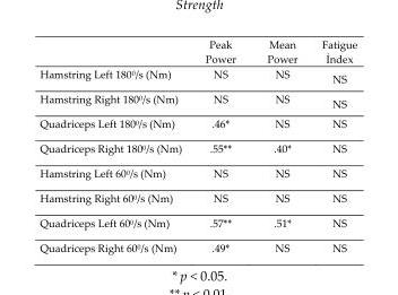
<table><thead><tr><td></td><td>Peak Power</td><td>Mean Power</td><td>Fatigue İndex</td></tr></thead><tbody><tr><td>Hamstring Left 180°/s (Nm)</td><td>NS</td><td>NS</td><td>NS</td></tr><tr><td>Hamstring Right 180°/s (Nm)</td><td>NS</td><td>NS</td><td>NS</td></tr><tr><td>Quadriceps Left 180°/s (Nm)</td><td>.46*</td><td>NS</td><td>NS</td></tr><tr><td>Quadriceps Right 180°/s (Nm)</td><td>.55**</td><td>.40*</td><td>NS</td></tr><tr><td>Hamstring Left 60°/s (Nm)</td><td>NS</td><td>NS</td><td>NS</td></tr><tr><td>Hamstring Right 60°/s (Nm)</td><td>NS</td><td>NS</td><td>NS</td></tr><tr><td>Quadriceps Left 60°/s (Nm)</td><td>.57**</td><td>.51*</td><td>NS</td></tr><tr><td>Quadriceps Right 60°/s (Nm)</td><td>.49*</td><td>NS</td><td>NS</td></tr></tbody></table>